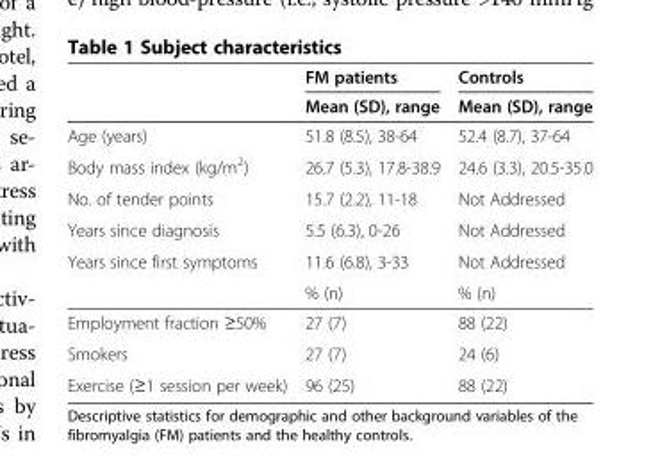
<table><thead><tr><td rowspan="2"></td><td rowspan="2">FM patients Mean (SD), range</td><td rowspan="2">Controls Mean (SD), range</td></tr><tr></tr></thead><tbody><tr><td>Age (years)</td><td>51.8 (8.5), 38-64</td><td>52.4 (8.7), 37-64</td></tr><tr><td>Body mass index (kg/m<sup>2</sup>)</td><td>26.7 (5.3), 17.8-38.9</td><td>24.6 (3.3), 20.5-35.0</td></tr><tr><td>No. of tender points</td><td>15.7 (2.2), 11-18</td><td>Not Addressed</td></tr><tr><td>Years since diagnosis</td><td>5.5 (6.3), 0-26</td><td>Not Addressed</td></tr><tr><td rowspan="2">Years since first symptoms</td><td>11.6 (6.8), 3-33</td><td>Not Addressed</td></tr><tr><td>% (n)</td><td>% (n)</td></tr><tr><td>Employment fraction ≥50%</td><td>27 (7)</td><td>88 (22)</td></tr><tr><td>Smokers</td><td>27 (7)</td><td>24 (6)</td></tr><tr><td>Exercise (≥1 session per week)</td><td>96 (25)</td><td>88 (22)</td></tr></tbody></table>